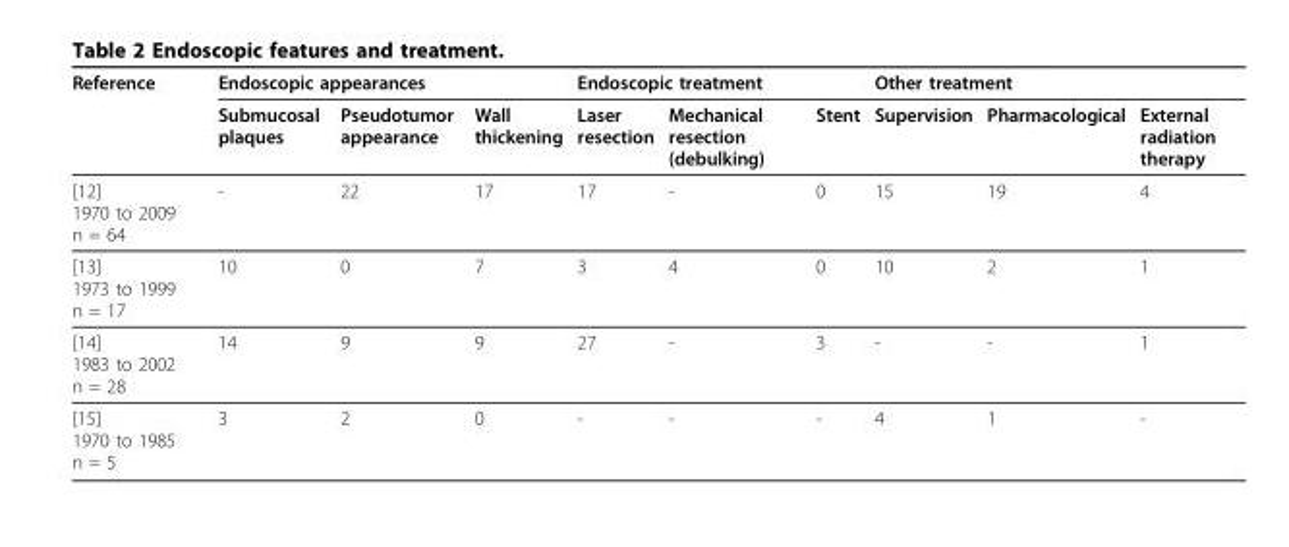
<table><thead><tr><td rowspan="2">Reference</td><td colspan="3">Endoscopic appearances</td><td colspan="3">Endoscopic treatment</td><td colspan="3">Other treatment</td></tr><tr><td>Submucosal plaques</td><td>Pseudotumor appearance</td><td>Wall thickening</td><td>Laser resection</td><td>Mechanical resection (debulking)</td><td>Stent</td><td>Supervision</td><td>Pharmacological</td><td>External radiation therapy</td></tr></thead><tbody><tr><td>[12] 1970 to 2009 n = 64</td><td>-</td><td>22</td><td>17</td><td>17</td><td>-</td><td>0</td><td>15</td><td>19</td><td>4</td></tr><tr><td>[13] 1973 to 1999 n = 17</td><td>10</td><td>0</td><td>7</td><td>3</td><td>4</td><td>0</td><td>10</td><td>2</td><td>1</td></tr><tr><td>[14] 1983 to 2002 n = 28</td><td>14</td><td>9</td><td>9</td><td>27</td><td>-</td><td>3</td><td>-</td><td>-</td><td>1</td></tr><tr><td>[15] 1970 to 1985 n = 5</td><td>3</td><td>2</td><td>0</td><td>-</td><td>-</td><td>-</td><td>4</td><td>1</td><td>-</td></tr></tbody></table>